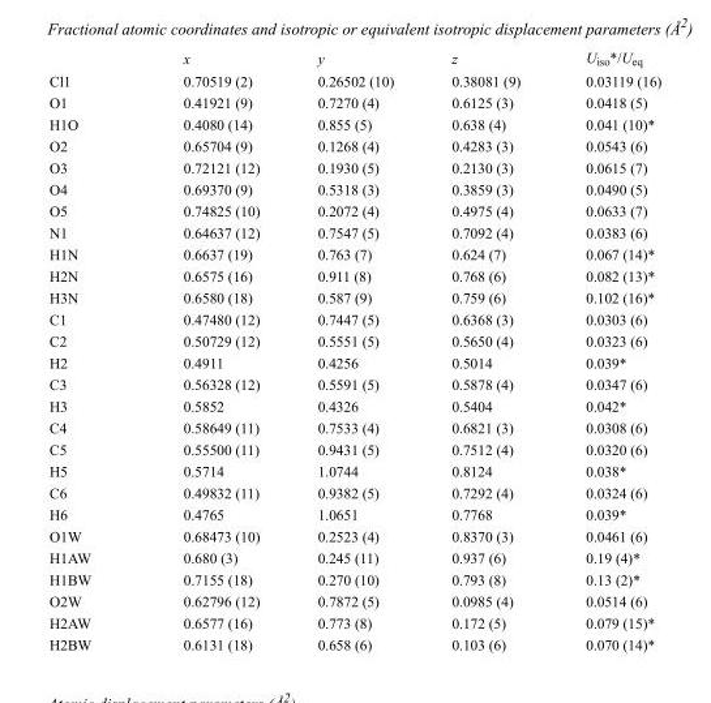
<table><thead><tr><td></td><td>x</td><td>y</td><td>z</td><td>U<sub>iso</sub>*/U<sub>eq</sub></td></tr></thead><tbody><tr><td>Cl1</td><td>0.70519 (2)</td><td>0.26502 (10)</td><td>0.38081 (9)</td><td>0.03119 (16)</td></tr><tr><td>O1</td><td>0.41921 (9)</td><td>0.7270 (4)</td><td>0.6125 (3)</td><td>0.0418 (5)</td></tr><tr><td>H1O</td><td>0.4080 (14)</td><td>0.855 (5)</td><td>0.638 (4)</td><td>0.041 (10)*</td></tr><tr><td>O2</td><td>0.65704 (9)</td><td>0.1268 (4)</td><td>0.4283 (3)</td><td>0.0543 (6)</td></tr><tr><td>O3</td><td>0.72121 (12)</td><td>0.1930 (5)</td><td>0.2130 (3)</td><td>0.0615 (7)</td></tr><tr><td>O4</td><td>0.69370 (9)</td><td>0.5318 (3)</td><td>0.3859 (3)</td><td>0.0490 (5)</td></tr><tr><td>O5</td><td>0.74825 (10)</td><td>0.2072 (4)</td><td>0.4975 (4)</td><td>0.0633 (7)</td></tr><tr><td>N1</td><td>0.64637 (12)</td><td>0.7547 (5)</td><td>0.7092 (4)</td><td>0.0383 (6)</td></tr><tr><td>H1N</td><td>0.6637 (19)</td><td>0.763 (7)</td><td>0.624 (7)</td><td>0.067 (14)*</td></tr><tr><td>H2N</td><td>0.6575 (16)</td><td>0.911 (8)</td><td>0.768 (6)</td><td>0.082 (13)*</td></tr><tr><td>H3N</td><td>0.6580 (18)</td><td>0.587 (9)</td><td>0.759 (6)</td><td>0.102 (16)*</td></tr><tr><td>C1</td><td>0.47480 (12)</td><td>0.7447 (5)</td><td>0.6368 (3)</td><td>0.0303 (6)</td></tr><tr><td>C2</td><td>0.50729 (12)</td><td>0.5551 (5)</td><td>0.5650 (4)</td><td>0.0323 (6)</td></tr><tr><td>H2</td><td>0.4911</td><td>0.4256</td><td>0.5014</td><td>0.039*</td></tr><tr><td>C3</td><td>0.56328 (12)</td><td>0.5591 (5)</td><td>0.5878 (4)</td><td>0.0347 (6)</td></tr><tr><td>H3</td><td>0.5852</td><td>0.4326</td><td>0.5404</td><td>0.042*</td></tr><tr><td>C4</td><td>0.58649 (11)</td><td>0.7533 (4)</td><td>0.6821 (3)</td><td>0.0308 (6)</td></tr><tr><td>C5</td><td>0.55500 (11)</td><td>0.9431 (5)</td><td>0.7512 (4)</td><td>0.0320 (6)</td></tr><tr><td>H5</td><td>0.5714</td><td>1.0744</td><td>0.8124</td><td>0.038*</td></tr><tr><td>C6</td><td>0.49832 (11)</td><td>0.9382 (5)</td><td>0.7292 (4)</td><td>0.0324 (6)</td></tr><tr><td>H6</td><td>0.4765</td><td>1.0651</td><td>0.7768</td><td>0.039*</td></tr><tr><td>O1W</td><td>0.68473 (10)</td><td>0.2523 (4)</td><td>0.8370 (3)</td><td>0.0461 (6)</td></tr><tr><td>H1AW</td><td>0.680 (3)</td><td>0.245 (11)</td><td>0.937 (6)</td><td>0.19 (4)*</td></tr><tr><td>H1BW</td><td>0.7155 (18)</td><td>0.270 (10)</td><td>0.793 (8)</td><td>0.13 (2)*</td></tr><tr><td>O2W</td><td>0.62796 (12)</td><td>0.7872 (5)</td><td>0.0985 (4)</td><td>0.0514 (6)</td></tr><tr><td>H2AW</td><td>0.6577 (16)</td><td>0.773 (8)</td><td>0.172 (5)</td><td>0.079 (15)*</td></tr><tr><td>H2BW</td><td>0.6131 (18)</td><td>0.658 (6)</td><td>0.103 (6)</td><td>0.070 (14)*</td></tr></tbody></table>